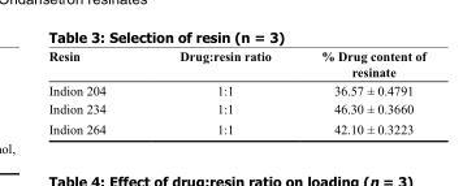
<table><thead><tr><td>Resin</td><td>Drug:resin ratio</td><td>% Drug content of resinate</td></tr></thead><tbody><tr><td>Indion 204</td><td>1:1</td><td>36.57 ± 0.4791</td></tr><tr><td>Indion 234</td><td>1:1</td><td>46.30 ± 0.3660</td></tr><tr><td>Indion 264</td><td>1:1</td><td>42.10 ± 0.3223</td></tr></tbody></table>